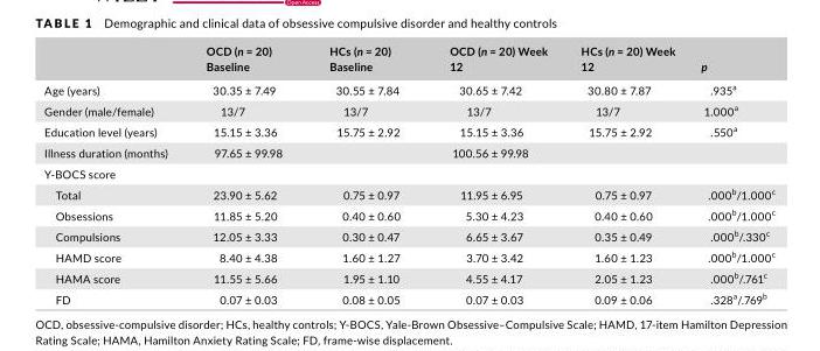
<table><thead><tr><td></td><td>OCD (n = 20) Baseline</td><td>HCs (n = 20) Baseline</td><td>OCD (n = 20) Week 12</td><td>HCs (n = 20) Week 12</td><td>p</td></tr></thead><tbody><tr><td>Age (years)</td><td>30.35 ± 7.49</td><td>30.55 ± 7.84</td><td>30.65 ± 7.42</td><td>30.80 ± 7.87</td><td>.935<sup>a</sup></td></tr><tr><td>Gender (male/female)</td><td>13/7</td><td>13/7</td><td>13/7</td><td>13/7</td><td>1.000<sup>a</sup></td></tr><tr><td>Education level (years)</td><td>15.15 ± 3.36</td><td>15.75 ± 2.92</td><td>15.15 ± 3.36</td><td>15.75 ± 2.92</td><td>.550<sup>a</sup></td></tr><tr><td>Illness duration (months)</td><td>97.65 ± 99.98</td><td></td><td>100.56 ± 99.98</td><td></td><td></td></tr><tr><td colspan="6">Y- BOCS score</td></tr><tr><td>Total</td><td>23.90 ± 5.62</td><td>0.75 ± 0.97</td><td>11.95 ± 6.95</td><td>0.75 ± 0.97</td><td>.000<sup>b</sup>/1.000<sup>c</sup></td></tr><tr><td>Obsessions</td><td>11.85 ± 5.20</td><td>0.40 ± 0.60</td><td>5.30 ± 4.23</td><td>0.40 ± 0.60</td><td>.000<sup>b</sup>/1.000<sup>c</sup></td></tr><tr><td>Compulsions</td><td>12.05 ± 3.33</td><td>0.30 ± 0.47</td><td>6.65 ± 3.67</td><td>0.35 ± 0.49</td><td>.000<sup>b</sup>/.330<sup>c</sup></td></tr><tr><td>HAMD score</td><td>8.40 ± 4.38</td><td>1.60 ± 1.27</td><td>3.70 ± 3.42</td><td>1.60 ± 1.23</td><td>.000<sup>b</sup>/1.000<sup>c</sup></td></tr><tr><td>HAMA score</td><td>11.55 ± 5.66</td><td>1.95 ± 1.10</td><td>4.55 ± 4.17</td><td>2.05 ± 1.23</td><td>.000<sup>b</sup>/.761<sup>c</sup></td></tr><tr><td>FD</td><td>0.07 ± 0.03</td><td>0.08 ± 0.05</td><td>0.07 ± 0.03</td><td>0.09 ± 0.06</td><td>.328<sup>a</sup>/.769<sup>b</sup></td></tr></tbody></table>